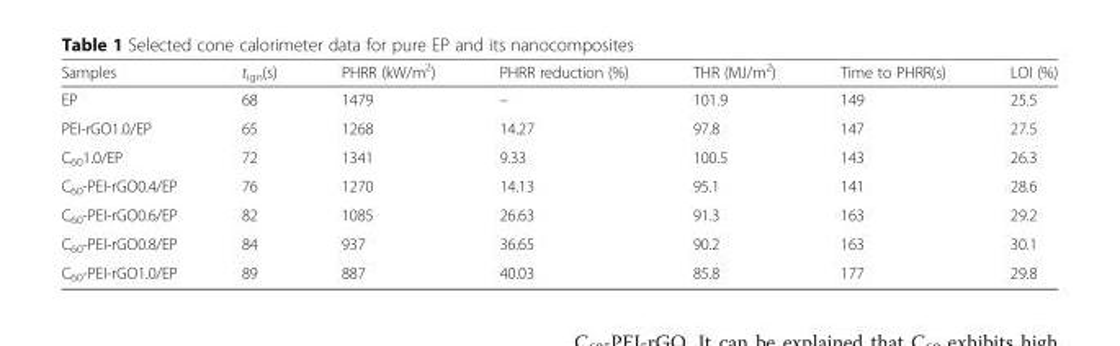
<table><thead><tr><td>Samples</td><td>t<sub>ign</sub>(s)</td><td>PHRR (kW/m<sup>2</sup>)</td><td>PHRR reduction (%)</td><td>THR (MJ/m<sup>2</sup>)</td><td>Time to PHRR(s)</td><td>LOI (%)</td></tr></thead><tbody><tr><td>EP</td><td>68</td><td>1479</td><td>–</td><td>101.9</td><td>149</td><td>25.5</td></tr><tr><td>PEI-rGO1.0/EP</td><td>65</td><td>1268</td><td>14.27</td><td>97.8</td><td>147</td><td>27.5</td></tr><tr><td>C<sub>60</sub>1.0/EP</td><td>72</td><td>1341</td><td>9.33</td><td>100.5</td><td>143</td><td>26.3</td></tr><tr><td>C<sub>60</sub>-PEI-rGO0.4/EP</td><td>76</td><td>1270</td><td>14.13</td><td>95.1</td><td>141</td><td>28.6</td></tr><tr><td>C<sub>60</sub>-PEI-rGO0.6/EP</td><td>82</td><td>1085</td><td>26.63</td><td>91.3</td><td>163</td><td>29.2</td></tr><tr><td>C<sub>60</sub>-PEI-rGO0.8/EP</td><td>84</td><td>937</td><td>36.65</td><td>90.2</td><td>163</td><td>30.1</td></tr><tr><td>C<sub>60</sub>-PEI-rGO1.0/EP</td><td>89</td><td>887</td><td>40.03</td><td>85.8</td><td>177</td><td>29.8</td></tr></tbody></table>